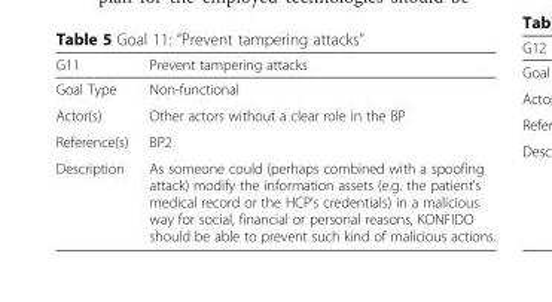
<table><thead><tr><td>G11</td><td>Prevent tampering attacks</td></tr></thead><tbody><tr><td>Goal Type</td><td>Non-functional</td></tr><tr><td>Actor(s)</td><td>Other actors without a clear role in the BP</td></tr><tr><td>Reference(s)</td><td>BP2</td></tr><tr><td>Description</td><td>As someone could (perhaps combined with a spoofing attack) modify the information assets (e.g. the patient’s medical record or the HCP’s credentials) in a malicious way for social, financial or personal reasons, KONFIDO should be able to prevent such kind of malicious actions.</td></tr></tbody></table>